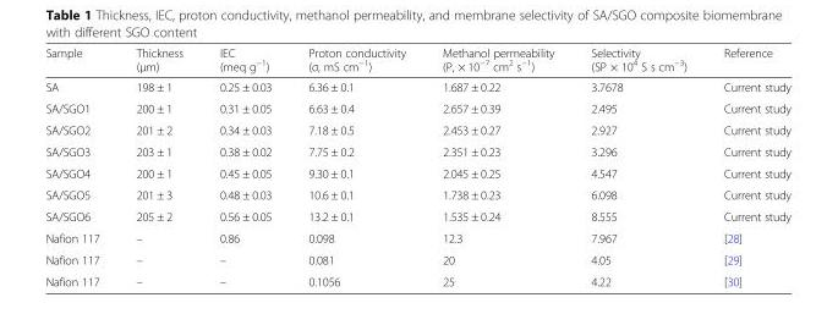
<table><thead><tr><td>Sample</td><td>Thickness (μm)</td><td>IEC (meq g<sup>−1</sup>)</td><td>Proton conductivity (σ, mS cm<sup>−1</sup>)</td><td>Methanol permeability (P, × 10<sup>−7</sup> cm<sup>2</sup> s<sup>−1</sup>)</td><td>Selectivity (SP × 10<sup>4</sup> S s cm<sup>−3</sup>)</td><td>Reference</td></tr></thead><tbody><tr><td>SA</td><td>198 ± 1</td><td>0.25 ± 0.03</td><td>6.36 ± 0.1</td><td>1.687 ± 0.22</td><td>3.7678</td><td>Current study</td></tr><tr><td>SA/SGO1</td><td>200 ± 1</td><td>0.31 ± 0.05</td><td>6.63 ± 0.4</td><td>2.657 ± 0.39</td><td>2.495</td><td>Current study</td></tr><tr><td>SA/SGO2</td><td>201 ± 2</td><td>0.34 ± 0.03</td><td>7.18 ± 0.5</td><td>2.453 ± 0.27</td><td>2.927</td><td>Current study</td></tr><tr><td>SA/SGO3</td><td>203 ± 1</td><td>0.38 ± 0.02</td><td>7.75 ± 0.2</td><td>2.351 ± 0.23</td><td>3.296</td><td>Current study</td></tr><tr><td>SA/SGO4</td><td>200 ± 1</td><td>0.45 ± 0.05</td><td>9.30 ± 0.1</td><td>2.045 ± 0.25</td><td>4.547</td><td>Current study</td></tr><tr><td>SA/SGO5</td><td>201 ± 3</td><td>0.48 ± 0.03</td><td>10.6 ± 0.1</td><td>1.738 ± 0.23</td><td>6.098</td><td>Current study</td></tr><tr><td>SA/SGO6</td><td>205 ± 2</td><td>0.56 ± 0.05</td><td>13.2 ± 0.1</td><td>1.535 ± 0.24</td><td>8.555</td><td>Current study</td></tr><tr><td>Nafion 117</td><td>–</td><td>0.86</td><td>0.098</td><td>12.3</td><td>7.967</td><td>[28]</td></tr><tr><td>Nafion 117</td><td>–</td><td>–</td><td>0.081</td><td>20</td><td>4.05</td><td>[29]</td></tr><tr><td>Nafion 117</td><td>–</td><td>–</td><td>0.1056</td><td>25</td><td>4.22</td><td>[30]</td></tr></tbody></table>